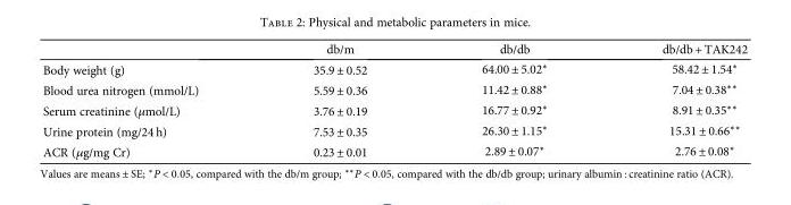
<table><thead><tr><td></td><td>db/m</td><td>db/db</td><td>db/db + TAK242</td></tr></thead><tbody><tr><td>Body weight (g)</td><td>35.9 ± 0.52</td><td>64.00 ± 5.02∗</td><td>58.42 ± 1.54∗</td></tr><tr><td>Blood urea nitrogen (mmol/L)</td><td>5.59 ± 0.36</td><td>11.42 ± 0.88∗</td><td>7.04 ± 0.38∗∗</td></tr><tr><td>Serum creatinine (μmol/L)</td><td>3.76 ± 0.19</td><td>16.77 ± 0.92∗</td><td>8.91 ± 0.35∗∗</td></tr><tr><td>Urine protein (mg/24 h)</td><td>7.53 ± 0.35</td><td>26.30 ± 1.15∗</td><td>15.31 ± 0.66∗∗</td></tr><tr><td>ACR (μg/mg Cr)</td><td>0.23 ± 0.01</td><td>2.89 ± 0.07∗</td><td>2.76 ± 0.08∗</td></tr></tbody></table>